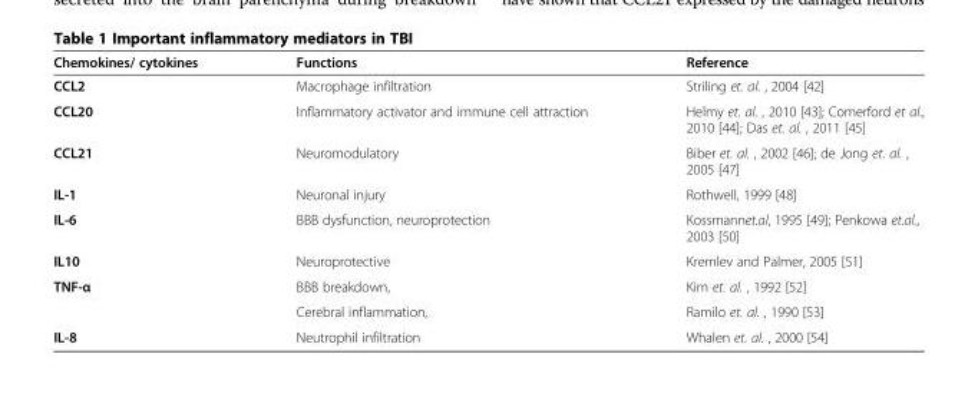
<table><thead><tr><td>Chemokines/ cytokines</td><td>Functions</td><td>Reference</td></tr></thead><tbody><tr><td>CCL2</td><td>Macrophage infiltration</td><td>Striling et. al. , 2004 [42]</td></tr><tr><td>CCL20</td><td>Inflammatory activator and immune cell attraction</td><td>Helmy et. al. , 2010 [43]; Comerford et al., 2010 [44]; Das et. al. , 2011 [45]</td></tr><tr><td>CCL21</td><td>Neuromodulatory</td><td>Biber et. al. , 2002 [46]; de Jong et. al. , 2005 [47]</td></tr><tr><td>IL-1</td><td>Neuronal injury</td><td>Rothwell, 1999 [48]</td></tr><tr><td>IL-6</td><td>BBB dysfunction, neuroprotection</td><td>Kossmannet.al, 1995 [49]; Penkowa et.al., 2003 [50]</td></tr><tr><td>IL10</td><td>Neuroprotective</td><td>Kremlev and Palmer, 2005 [51]</td></tr><tr><td rowspan="2">TNF-α</td><td>BBB breakdown,</td><td>Kim et. al. , 1992 [52]</td></tr><tr><td>Cerebral inflammation,</td><td>Ramilo et. al. , 1990 [53]</td></tr><tr><td>IL-8</td><td>Neutrophil infiltration</td><td>Whalen et. al. , 2000 [54]</td></tr></tbody></table>